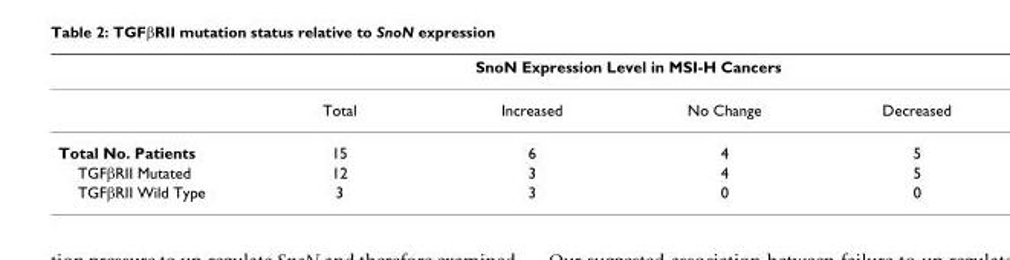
<table><thead><tr><td rowspan="2"></td><td colspan="4">SnoN Expression Level in MSI-H Cancers</td></tr><tr><td>Total</td><td>Increased</td><td>No Change</td><td>Decreased</td></tr></thead><tbody><tr><td>Total No. Patients</td><td>15</td><td>6</td><td>4</td><td>5</td></tr><tr><td>TGFβRII Mutated</td><td>12</td><td>3</td><td>4</td><td>5</td></tr><tr><td>TGFβRII Wild Type</td><td>3</td><td>3</td><td>0</td><td>0</td></tr></tbody></table>